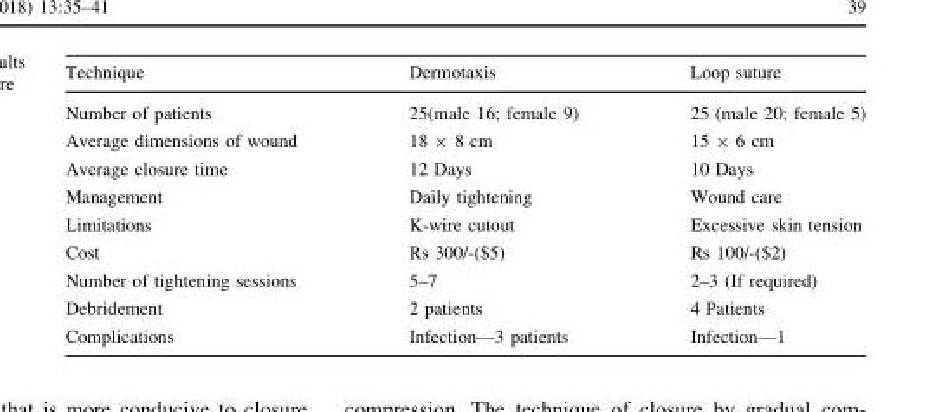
<table><thead><tr><td>Technique</td><td>Dermotaxis</td><td>Loop suture</td></tr></thead><tbody><tr><td>Number of patients</td><td>25(male 16; female 9)</td><td>25 (male 20; female 5)</td></tr><tr><td>Average dimensions of wound</td><td>18 × 8 cm</td><td>15 × 6 cm</td></tr><tr><td>Average closure time</td><td>12 Days</td><td>10 Days</td></tr><tr><td>Management</td><td>Daily tightening</td><td>Wound care</td></tr><tr><td>Limitations</td><td>K-wire cutout</td><td>Excessive skin tension</td></tr><tr><td>Cost</td><td>Rs 300/-($5)</td><td>Rs 100/-($2)</td></tr><tr><td>Number of tightening sessions</td><td>5–7</td><td>2–3 (If required)</td></tr><tr><td>Debridement</td><td>2 patients</td><td>4 Patients</td></tr><tr><td>Complications</td><td>Infection—3 patients</td><td>Infection—1</td></tr></tbody></table>